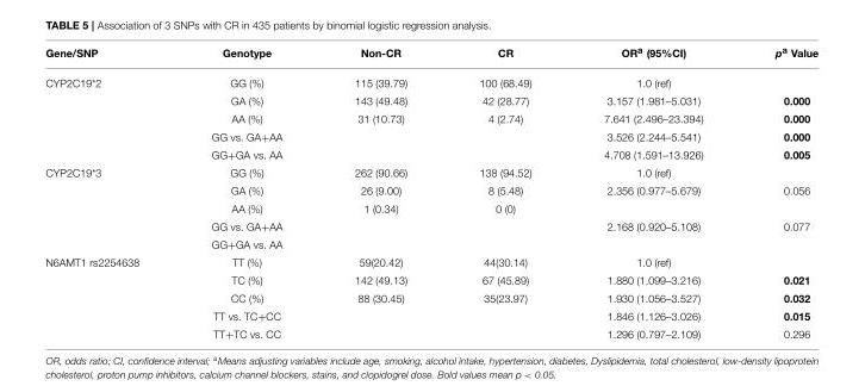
<table><thead><tr><td>Gene/SNP</td><td>Genotype</td><td>Non-CR</td><td>CR</td><td>OR<sup>a</sup> (95%CI)</td><td>p<sup>a</sup> Value</td></tr></thead><tbody><tr><td rowspan="5">CYP2C19*2</td><td>GG (%)</td><td>115 (39.79)</td><td>100 (68.49)</td><td>1.0 (ref)</td><td></td></tr><tr><td>GA (%)</td><td>143 (49.48)</td><td>42 (28.77)</td><td>3.157 (1.981–5.031)</td><td>0.000</td></tr><tr><td>AA (%)</td><td>31 (10.73)</td><td>4 (2.74)</td><td>7.641 (2.496–23.394)</td><td>0.000</td></tr><tr><td>GG vs. GA+AA</td><td></td><td></td><td>3.526 (2.244–5.541)</td><td>0.000</td></tr><tr><td>GG+GA vs. AA</td><td></td><td></td><td>4.708 (1.591–13.926)</td><td>0.005</td></tr><tr><td rowspan="5">CYP2C19*3</td><td>GG (%)</td><td>262 (90.66)</td><td>138 (94.52)</td><td>1.0 (ref)</td><td></td></tr><tr><td>GA (%)</td><td>26 (9.00)</td><td>8 (5.48)</td><td>2.356 (0.977–5.679)</td><td>0.056</td></tr><tr><td>AA (%)</td><td>1 (0.34)</td><td>0 (0)</td><td></td><td></td></tr><tr><td>GG vs. GA+AA</td><td></td><td></td><td>2.168 (0.920–5.108)</td><td>0.077</td></tr><tr><td>GG+GA vs. AA</td><td></td><td></td><td></td><td></td></tr><tr><td rowspan="5">N6AMT1 rs2254638</td><td>TT (%)</td><td>59(20.42)</td><td>44(30.14)</td><td>1.0 (ref)</td><td></td></tr><tr><td>TC (%)</td><td>142 (49.13)</td><td>67 (45.89)</td><td>1.880 (1.099–3.216)</td><td>0.021</td></tr><tr><td>CC (%)</td><td>88 (30.45)</td><td>35(23.97)</td><td>1.930 (1.056–3.527)</td><td>0.032</td></tr><tr><td>TT vs. TC+CC</td><td></td><td></td><td>1.846 (1.126–3.026)</td><td>0.015</td></tr><tr><td>TT+TC vs. CC</td><td></td><td></td><td>1.296 (0.797–2.109)</td><td>0.296</td></tr></tbody></table>